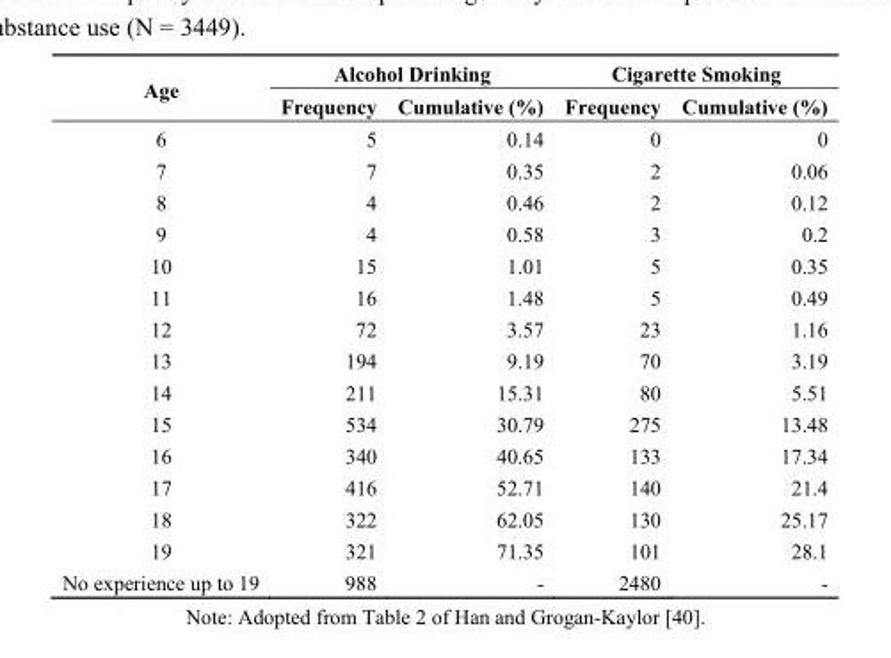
<table><thead><tr><td rowspan="2">Age</td><td colspan="2">Alcohol Drinking</td><td colspan="2">Cigarette Smoking</td></tr><tr><td>Frequency</td><td>Cumulative (%)</td><td>Frequency</td><td>Cumulative (%)</td></tr></thead><tbody><tr><td>6</td><td>5</td><td>0.14</td><td>0</td><td>0</td></tr><tr><td>7</td><td>7</td><td>0.35</td><td>2</td><td>0.06</td></tr><tr><td>8</td><td>4</td><td>0.46</td><td>2</td><td>0.12</td></tr><tr><td>9</td><td>4</td><td>0.58</td><td>3</td><td>0.2</td></tr><tr><td>10</td><td>15</td><td>1.01</td><td>5</td><td>0.35</td></tr><tr><td>11</td><td>16</td><td>1.48</td><td>5</td><td>0.49</td></tr><tr><td>12</td><td>72</td><td>3.57</td><td>23</td><td>1.16</td></tr><tr><td>13</td><td>194</td><td>9.19</td><td>70</td><td>3.19</td></tr><tr><td>14</td><td>211</td><td>15.31</td><td>80</td><td>5.51</td></tr><tr><td>15</td><td>534</td><td>30.79</td><td>275</td><td>13.48</td></tr><tr><td>16</td><td>340</td><td>40.65</td><td>133</td><td>17.34</td></tr><tr><td>17</td><td>416</td><td>52.71</td><td>140</td><td>21.4</td></tr><tr><td>18</td><td>322</td><td>62.05</td><td>130</td><td>25.17</td></tr><tr><td>19</td><td>321</td><td>71.35</td><td>101</td><td>28.1</td></tr><tr><td>No experience up to 19</td><td>988</td><td>-</td><td>2480</td><td>-</td></tr></tbody></table>